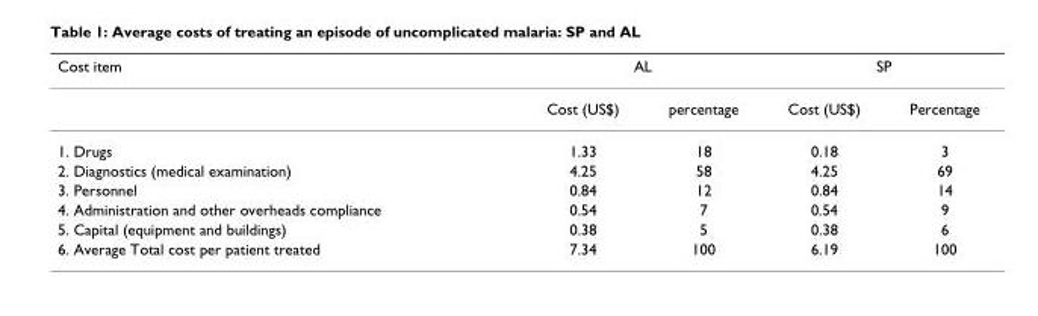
<table><thead><tr><td rowspan="2">Cost item</td><td colspan="2">AL</td><td colspan="2">SP</td></tr><tr><td>Cost (US$)</td><td>percentage</td><td>Cost (US$)</td><td>Percentage</td></tr></thead><tbody><tr><td>1. Drugs</td><td>1.33</td><td>18</td><td>0.18</td><td>3</td></tr><tr><td>2. Diagnostics (medical examination)</td><td>4.25</td><td>58</td><td>4.25</td><td>69</td></tr><tr><td>3. Personnel</td><td>0.84</td><td>12</td><td>0.84</td><td>14</td></tr><tr><td>4. Administration and other overheads compliance</td><td>0.54</td><td>7</td><td>0.54</td><td>9</td></tr><tr><td>5. Capital (equipment and buildings)</td><td>0.38</td><td>5</td><td>0.38</td><td>6</td></tr><tr><td>6. Average Total cost per patient treated</td><td>7.34</td><td>100</td><td>6.19</td><td>100</td></tr></tbody></table>